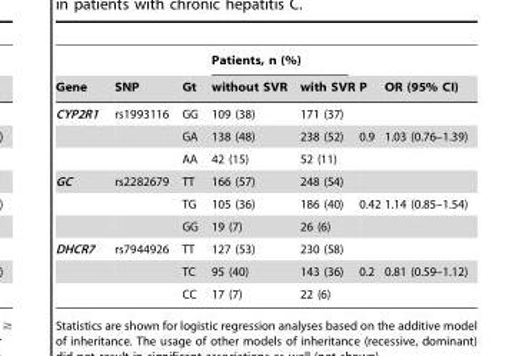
<table><thead><tr><td rowspan="2">Gene</td><td rowspan="2">SNP</td><td rowspan="2">Gt</td><td colspan="2">Patients, n (%)</td><td rowspan="2">P</td><td rowspan="2">OR (95% CI)</td></tr><tr><td>without SVR</td><td>with SVR</td></tr></thead><tbody><tr><td rowspan="3">CYP2R1</td><td>rs1993116</td><td>GG</td><td>109 (38)</td><td>171 (37)</td><td></td><td></td></tr><tr><td></td><td>GA</td><td>138 (48)</td><td>238 (52)</td><td>0.9</td><td>1.03 (0.76–1.39)</td></tr><tr><td></td><td>AA</td><td>42 (15)</td><td>52 (11)</td><td></td><td></td></tr><tr><td rowspan="3">GC</td><td>rs2282679</td><td>TT</td><td>166 (57)</td><td>248 (54)</td><td></td><td></td></tr><tr><td></td><td>TG</td><td>105 (36)</td><td>186 (40)</td><td>0.42</td><td>1.14 (0.85–1.54)</td></tr><tr><td></td><td>GG</td><td>19 (7)</td><td>26 (6)</td><td></td><td></td></tr><tr><td rowspan="3">DHCR7</td><td>rs7944926</td><td>TT</td><td>127 (53)</td><td>230 (58)</td><td></td><td></td></tr><tr><td></td><td>TC</td><td>95 (40)</td><td>143 (36)</td><td>0.2</td><td>0.81 (0.59–1.12)</td></tr><tr><td></td><td>CC</td><td>17 (7)</td><td>22 (6)</td><td></td><td></td></tr></tbody></table>